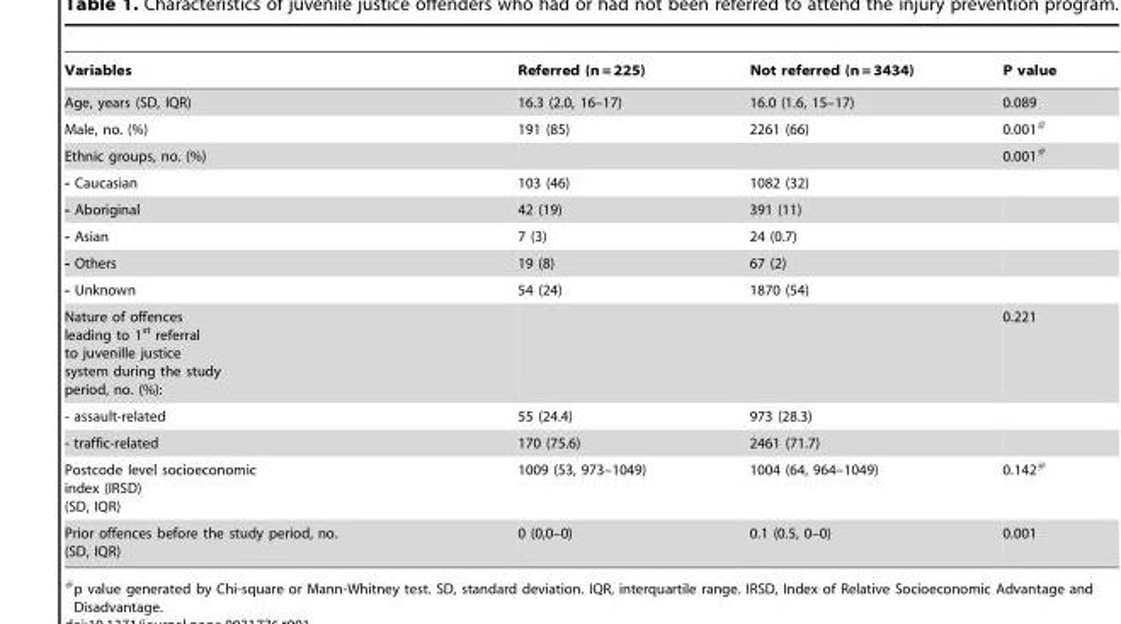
<table><thead><tr><td>Variables</td><td>Referred (n = 225)</td><td>Not referred (n = 3434)</td><td>P value</td></tr></thead><tbody><tr><td>Age, years (SD, IQR)</td><td>16.3 (2.0, 16–17)</td><td>16.0 (1.6, 15–17)</td><td>0.089</td></tr><tr><td>Male, no. (%)</td><td>191 (85)</td><td>2261 (66)</td><td>0.001#</td></tr><tr><td>Ethnic groups, no. (%)</td><td></td><td></td><td>0.001#</td></tr><tr><td>- Caucasian</td><td>103 (46)</td><td>1082 (32)</td><td></td></tr><tr><td>- Aboriginal</td><td>42 (19)</td><td>391 (11)</td><td></td></tr><tr><td>- Asian</td><td>7 (3)</td><td>24 (0.7)</td><td></td></tr><tr><td>- Others</td><td>19 (8)</td><td>67 (2)</td><td></td></tr><tr><td>- Unknown</td><td>54 (24)</td><td>1870 (54)</td><td></td></tr><tr><td>Nature of offences leading to 1<sup>st</sup> referral to juvenille justice system during the study period, no. (%):</td><td></td><td></td><td>0.221</td></tr><tr><td>- assault-related</td><td>55 (24.4)</td><td>973 (28.3)</td><td></td></tr><tr><td>- traffic-related</td><td>170 (75.6)</td><td>2461 (71.7)</td><td></td></tr><tr><td>Postcode level socioeconomic index (IRSD) (SD, IQR)</td><td>1009 (53, 973–1049)</td><td>1004 (64, 964–1049)</td><td>0.142#</td></tr><tr><td>Prior offences before the study period, no. (SD, IQR)</td><td>0 (0,0–0)</td><td>0.1 (0.5, 0–0)</td><td>0.001</td></tr></tbody></table>